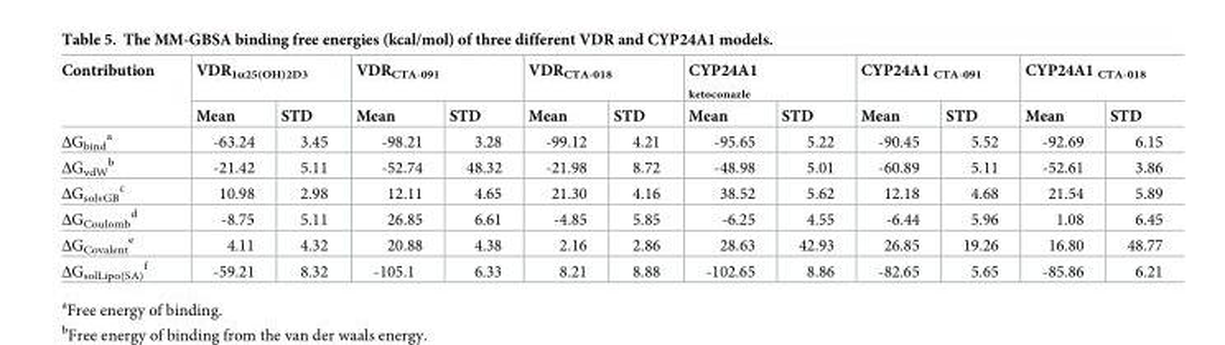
<table><thead><tr><td rowspan="2">Contribution</td><td colspan="2">VDR<sub>1α25(OH)2D3</sub></td><td colspan="2">VDR<sub>CTA-091</sub></td><td colspan="2">VDR<sub>CTA-018</sub></td><td colspan="2">CYP24A1 <sub>ketoconazle</sub></td><td colspan="2">CYP24A1 <sub>CTA-091</sub></td><td colspan="2">CYP24A1 <sub>CTA-018</sub></td></tr><tr><td>Mean</td><td>STD</td><td>Mean</td><td>STD</td><td>Mean</td><td>STD</td><td>Mean</td><td>STD</td><td>Mean</td><td>STD</td><td>Mean</td><td>STD</td></tr></thead><tbody><tr><td>ΔG<sub>bind</sub> <sup>a</sup></td><td>-63.24</td><td>3.45</td><td>-98.21</td><td>3.28</td><td>-99.12</td><td>4.21</td><td>-95.65</td><td>5.22</td><td>-90.45</td><td>5.52</td><td>-92.69</td><td>6.15</td></tr><tr><td>ΔG<sub>vdW</sub> <sup>b</sup></td><td>-21.42</td><td>5.11</td><td>-52.74</td><td>48.32</td><td>-21.98</td><td>8.72</td><td>-48.98</td><td>5.01</td><td>-60.89</td><td>5.11</td><td>-52.61</td><td>3.86</td></tr><tr><td>ΔG<sub>solvGB</sub> <sup>c</sup></td><td>10.98</td><td>2.98</td><td>12.11</td><td>4.65</td><td>21.30</td><td>4.16</td><td>38.52</td><td>5.62</td><td>12.18</td><td>4.68</td><td>21.54</td><td>5.89</td></tr><tr><td>ΔG<sub>Coulomb</sub> <sup>d</sup></td><td>-8.75</td><td>5.11</td><td>26.85</td><td>6.61</td><td>-4.85</td><td>5.85</td><td>-6.25</td><td>4.55</td><td>-6.44</td><td>5.96</td><td>1.08</td><td>6.45</td></tr><tr><td>ΔG<sub>Covalent</sub> <sup>e</sup></td><td>4.11</td><td>4.32</td><td>20.88</td><td>4.38</td><td>2.16</td><td>2.86</td><td>28.63</td><td>42.93</td><td>26.85</td><td>19.26</td><td>16.80</td><td>48.77</td></tr><tr><td>ΔG<sub>solLipo(SA)</sub> <sup>f</sup></td><td>-59.21</td><td>8.32</td><td>-105.1</td><td>6.33</td><td>8.21</td><td>8.88</td><td>-102.65</td><td>8.86</td><td>-82.65</td><td>5.65</td><td>-85.86</td><td>6.21</td></tr></tbody></table>